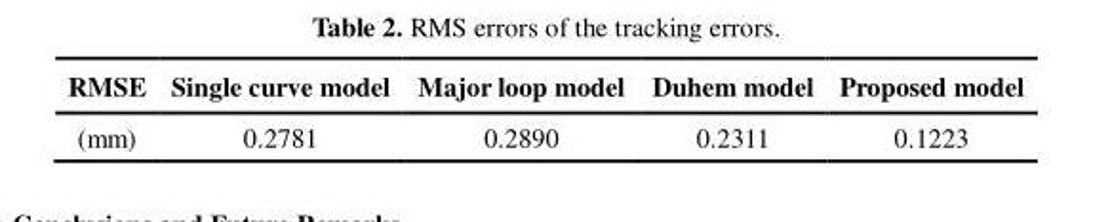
<table><thead><tr><td>RMSE</td><td>Single curve model</td><td>Major loop model</td><td>Duhem model</td><td>Proposed model</td></tr></thead><tbody><tr><td>(mm)</td><td>0.2781</td><td>0.2890</td><td>0.2311</td><td>0.1223</td></tr></tbody></table>